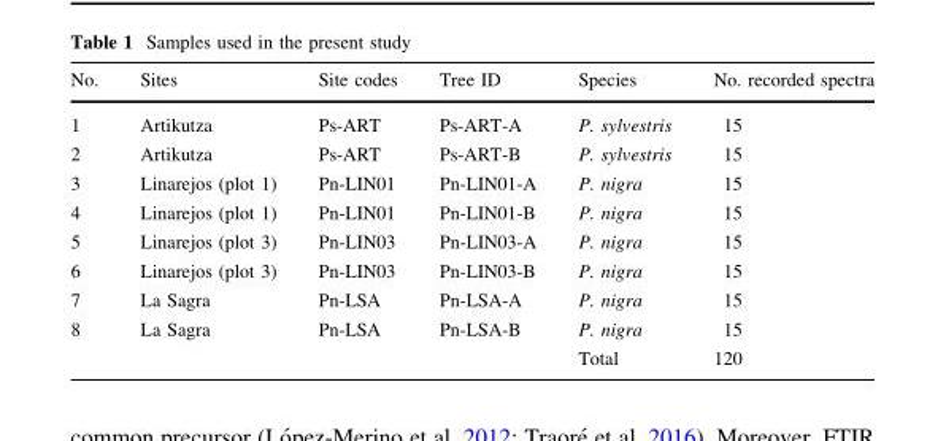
<table><thead><tr><td>No.</td><td>Sites</td><td>Site codes</td><td>Tree ID</td><td>Species</td><td>No. recorded spectra</td></tr></thead><tbody><tr><td>1</td><td>Artikutza</td><td>Ps-ART</td><td>Ps-ART-A</td><td>P. sylvestris</td><td>15</td></tr><tr><td>2</td><td>Artikutza</td><td>Ps-ART</td><td>Ps-ART-B</td><td>P. sylvestris</td><td>15</td></tr><tr><td>3</td><td>Linarejos (plot 1)</td><td>Pn-LIN01</td><td>Pn-LIN01-A</td><td>P. nigra</td><td>15</td></tr><tr><td>4</td><td>Linarejos (plot 1)</td><td>Pn-LIN01</td><td>Pn-LIN01-B</td><td>P. nigra</td><td>15</td></tr><tr><td>5</td><td>Linarejos (plot 3)</td><td>Pn-LIN03</td><td>Pn-LIN03-A</td><td>P. nigra</td><td>15</td></tr><tr><td>6</td><td>Linarejos (plot 3)</td><td>Pn-LIN03</td><td>Pn-LIN03-B</td><td>P. nigra</td><td>15</td></tr><tr><td>7</td><td>La Sagra</td><td>Pn-LSA</td><td>Pn-LSA-A</td><td>P. nigra</td><td>15</td></tr><tr><td rowspan="2">8</td><td>La Sagra</td><td>Pn-LSA</td><td>Pn-LSA-B</td><td>P. nigra</td><td>15</td></tr><tr><td></td><td></td><td></td><td>Total</td><td>120</td></tr></tbody></table>